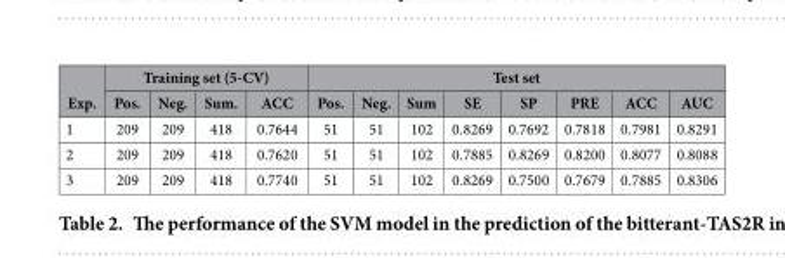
<table><thead><tr><td rowspan="2">Exp.</td><td colspan="4">Training set (5-CV)</td><td colspan="8">Test set</td></tr><tr><td>Pos.</td><td>Neg.</td><td>Sum.</td><td>ACC</td><td>Pos.</td><td>Neg.</td><td>Sum</td><td>SE</td><td>SP</td><td>PRE</td><td>ACC</td><td>AUC</td></tr></thead><tbody><tr><td>1</td><td>209</td><td>209</td><td>418</td><td>0.7644</td><td>51</td><td>51</td><td>102</td><td>0.8269</td><td>0.7692</td><td>0.7818</td><td>0.7981</td><td>0.8291</td></tr><tr><td>2</td><td>209</td><td>209</td><td>418</td><td>0.7620</td><td>51</td><td>51</td><td>102</td><td>0.7885</td><td>0.8269</td><td>0.8200</td><td>0.8077</td><td>0.8088</td></tr><tr><td>3</td><td>209</td><td>209</td><td>418</td><td>0.7740</td><td>51</td><td>51</td><td>102</td><td>0.8269</td><td>0.7500</td><td>0.7679</td><td>0.7885</td><td>0.8306</td></tr></tbody></table>